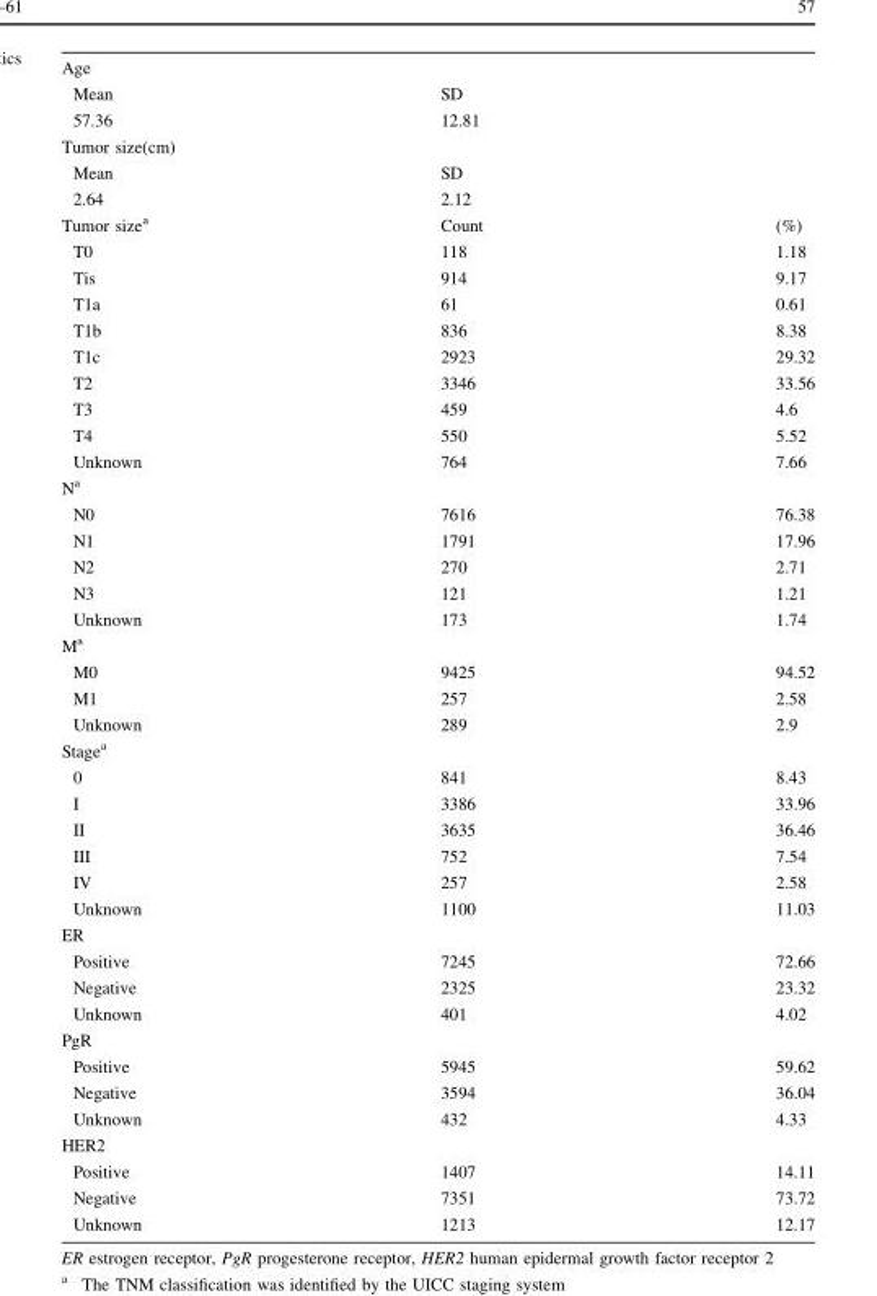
<table><tbody><tr><td colspan="3">Age</td></tr><tr><td>Mean</td><td colspan="2">SD</td></tr><tr><td>57.36</td><td colspan="2">12.81</td></tr><tr><td colspan="3">Tumor size(cm)</td></tr><tr><td>Mean</td><td colspan="2">SD</td></tr><tr><td>2.64</td><td colspan="2">2.12</td></tr><tr><td>Tumor size<sup>a</sup></td><td>Count</td><td>(%)</td></tr><tr><td>T0</td><td>118</td><td>1.18</td></tr><tr><td>Tis</td><td>914</td><td>9.17</td></tr><tr><td>T1a</td><td>61</td><td>0.61</td></tr><tr><td>T1b</td><td>836</td><td>8.38</td></tr><tr><td>T1c</td><td>2923</td><td>29.32</td></tr><tr><td>T2</td><td>3346</td><td>33.56</td></tr><tr><td>T3</td><td>459</td><td>4.6</td></tr><tr><td>T4</td><td>550</td><td>5.52</td></tr><tr><td>Unknown</td><td>764</td><td>7.66</td></tr><tr><td colspan="3">N<sup>a</sup></td></tr><tr><td>N0</td><td>7616</td><td>76.38</td></tr><tr><td>N1</td><td>1791</td><td>17.96</td></tr><tr><td>N2</td><td>270</td><td>2.71</td></tr><tr><td>N3</td><td>121</td><td>1.21</td></tr><tr><td>Unknown</td><td>173</td><td>1.74</td></tr><tr><td colspan="3">M<sup>a</sup></td></tr><tr><td>M0</td><td>9425</td><td>94.52</td></tr><tr><td>M1</td><td>257</td><td>2.58</td></tr><tr><td>Unknown</td><td>289</td><td>2.9</td></tr><tr><td colspan="3">Stage<sup>a</sup></td></tr><tr><td>0</td><td>841</td><td>8.43</td></tr><tr><td>I</td><td>3386</td><td>33.96</td></tr><tr><td>II</td><td>3635</td><td>36.46</td></tr><tr><td>III</td><td>752</td><td>7.54</td></tr><tr><td>IV</td><td>257</td><td>2.58</td></tr><tr><td>Unknown</td><td>1100</td><td>11.03</td></tr><tr><td colspan="3">ER</td></tr><tr><td>Positive</td><td>7245</td><td>72.66</td></tr><tr><td>Negative</td><td>2325</td><td>23.32</td></tr><tr><td>Unknown</td><td>401</td><td>4.02</td></tr><tr><td colspan="3">PgR</td></tr><tr><td>Positive</td><td>5945</td><td>59.62</td></tr><tr><td>Negative</td><td>3594</td><td>36.04</td></tr><tr><td>Unknown</td><td>432</td><td>4.33</td></tr><tr><td colspan="3">HER2</td></tr><tr><td>Positive</td><td>1407</td><td>14.11</td></tr><tr><td>Negative</td><td>7351</td><td>73.72</td></tr><tr><td>Unknown</td><td>1213</td><td>12.17</td></tr></tbody></table>